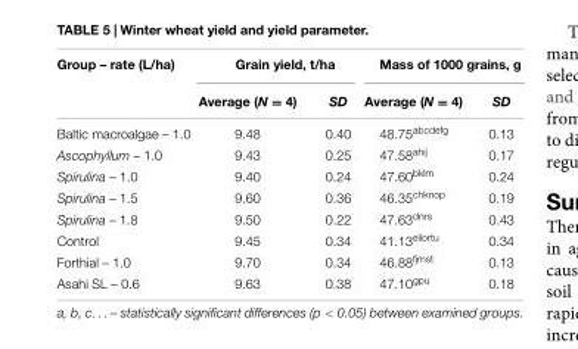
<table><thead><tr><td rowspan="2">Group – rate (L/ha)</td><td colspan="2">Grain yield, t/ha</td><td colspan="2">Mass of 1000 grains, g</td></tr><tr><td>Average (N = 4)</td><td>SD</td><td>Average (N = 4)</td><td>SD</td></tr></thead><tbody><tr><td>Baltic macroalgae – 1.0</td><td>9.48</td><td>0.40</td><td>48.75<sup>abcdefg</sup></td><td>0.13</td></tr><tr><td>Ascophyllum – 1.0</td><td>9.43</td><td>0.25</td><td>47.58<sup>ahij</sup></td><td>0.17</td></tr><tr><td>Spirulina – 1.0</td><td>9.40</td><td>0.24</td><td>47.60<sup>bklm</sup></td><td>0.24</td></tr><tr><td>Spirulina – 1.5</td><td>9.60</td><td>0.36</td><td>46.35<sup>chknop</sup></td><td>0.19</td></tr><tr><td>Spirulina – 1.8</td><td>9.50</td><td>0.22</td><td>47.63<sup>dnrs</sup></td><td>0.43</td></tr><tr><td>Control</td><td>9.45</td><td>0.34</td><td>41.13<sup>eilortu</sup></td><td>0.34</td></tr><tr><td>Forthial – 1.0</td><td>9.70</td><td>0.34</td><td>46.88<sup>fjmst</sup></td><td>0.13</td></tr><tr><td>Asahi SL – 0.6</td><td>9.63</td><td>0.38</td><td>47.10<sup>gpu</sup></td><td>0.18</td></tr></tbody></table>